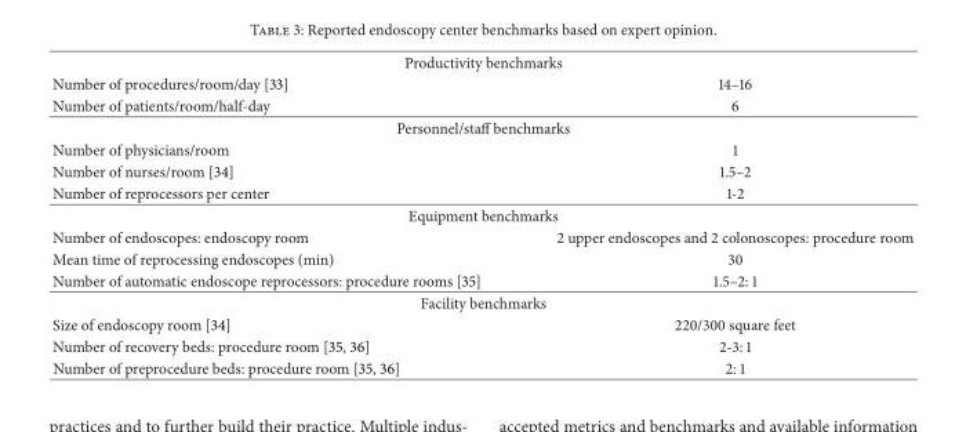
<table><tbody><tr><td colspan="2">Productivity benchmarks</td></tr><tr><td>Number of procedures/room/day [33]</td><td>14–16</td></tr><tr><td>Number of patients/room/half-day</td><td>6</td></tr><tr><td colspan="2">Personnel/staff benchmarks</td></tr><tr><td>Number of physicians/room</td><td>1</td></tr><tr><td>Number of nurses/room [34]</td><td>1.5–2</td></tr><tr><td>Number of reprocessors per center</td><td>1-2</td></tr><tr><td colspan="2">Equipment benchmarks</td></tr><tr><td>Number of endoscopes: endoscopy room</td><td>2 upper endoscopes and 2 colonoscopes: procedure room</td></tr><tr><td>Mean time of reprocessing endoscopes (min)</td><td>30</td></tr><tr><td>Number of automatic endoscope reprocessors: procedure rooms [35]</td><td>1.5–2: 1</td></tr><tr><td colspan="2">Facility benchmarks</td></tr><tr><td>Size of endoscopy room [34]</td><td>220/300 square feet</td></tr><tr><td>Number of recovery beds: procedure room [35, 36]</td><td>2-3: 1</td></tr><tr><td>Number of preprocedure beds: procedure room [35, 36]</td><td>2: 1</td></tr></tbody></table>